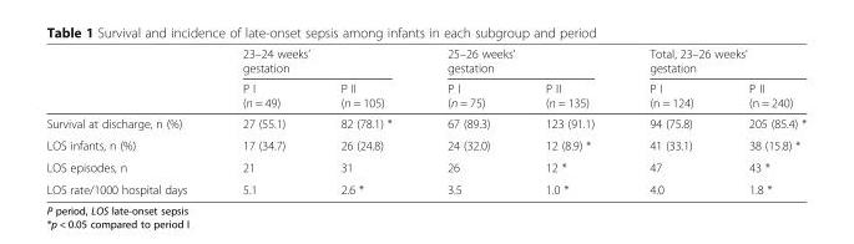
<table><thead><tr><td rowspan="2"></td><td colspan="2">23–24 weeks’ gestation</td><td colspan="2">25–26 weeks’ gestation</td><td colspan="2">Total, 23–26 weeks’ gestation</td></tr><tr><td>P I (n = 49)</td><td>P II (n = 105)</td><td>P I (n = 75)</td><td>P II (n = 135)</td><td>P I (n = 124)</td><td>P II (n = 240)</td></tr></thead><tbody><tr><td>Survival at discharge, n (%)</td><td>27 (55.1)</td><td>82 (78.1) *</td><td>67 (89.3)</td><td>123 (91.1)</td><td>94 (75.8)</td><td>205 (85.4) *</td></tr><tr><td>LOS infants, n (%)</td><td>17 (34.7)</td><td>26 (24.8)</td><td>24 (32.0)</td><td>12 (8.9) *</td><td>41 (33.1)</td><td>38 (15.8) *</td></tr><tr><td>LOS episodes, n</td><td>21</td><td>31</td><td>26</td><td>12 *</td><td>47</td><td>43 *</td></tr><tr><td>LOS rate/1000 hospital days</td><td>5.1</td><td>2.6 *</td><td>3.5</td><td>1.0 *</td><td>4.0</td><td>1.8 *</td></tr></tbody></table>